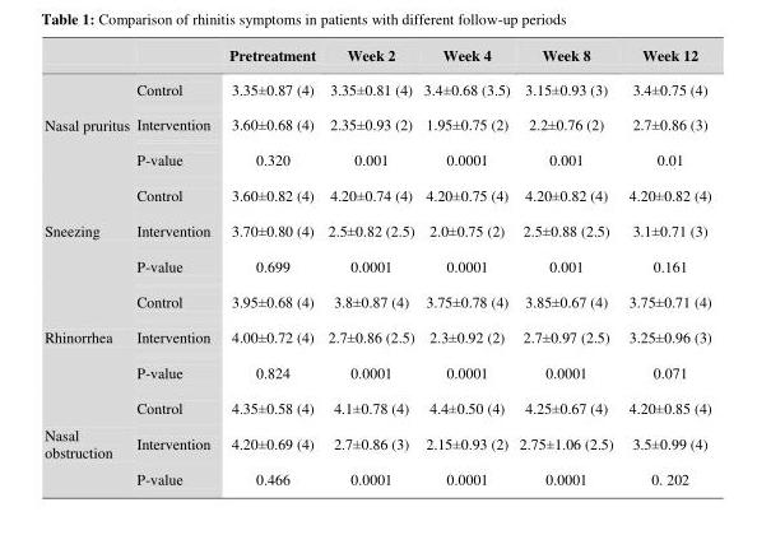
<table><thead><tr><td></td><td></td><td>Pretreatment</td><td>Week 2</td><td>Week 4</td><td>Week 8</td><td>Week 12</td></tr></thead><tbody><tr><td rowspan="3">Nasal pruritus</td><td>Control</td><td>3.35±0.87 (4)</td><td>3.35±0.81 (4)</td><td>3.4±0.68 (3.5)</td><td>3.15±0.93 (3)</td><td>3.4±0.75 (4)</td></tr><tr><td>Intervention</td><td>3.60±0.68 (4)</td><td>2.35±0.93 (2)</td><td>1.95±0.75 (2)</td><td>2.2±0.76 (2)</td><td>2.7±0.86 (3)</td></tr><tr><td>P-value</td><td>0.320</td><td>0.001</td><td>0.0001</td><td>0.001</td><td>0.01</td></tr><tr><td rowspan="3">Sneezing</td><td>Control</td><td>3.60±0.82 (4)</td><td>4.20±0.74 (4)</td><td>4.20±0.75 (4)</td><td>4.20±0.82 (4)</td><td>4.20±0.82 (4)</td></tr><tr><td>Intervention</td><td>3.70±0.80 (4)</td><td>2.5±0.82 (2.5)</td><td>2.0±0.75 (2)</td><td>2.5±0.88 (2.5)</td><td>3.1±0.71 (3)</td></tr><tr><td>P-value</td><td>0.699</td><td>0.0001</td><td>0.0001</td><td>0.001</td><td>0.161</td></tr><tr><td rowspan="3">Rhinorrhea</td><td>Control</td><td>3.95±0.68 (4)</td><td>3.8±0.87 (4)</td><td>3.75±0.78 (4)</td><td>3.85±0.67 (4)</td><td>3.75±0.71 (4)</td></tr><tr><td>Intervention</td><td>4.00±0.72 (4)</td><td>2.7±0.86 (2.5)</td><td>2.3±0.92 (2)</td><td>2.7±0.97 (2.5)</td><td>3.25±0.96 (3)</td></tr><tr><td>P-value</td><td>0.824</td><td>0.0001</td><td>0.0001</td><td>0.0001</td><td>0.071</td></tr><tr><td rowspan="3">Nasal obstruction</td><td>Control</td><td>4.35±0.58 (4)</td><td>4.1±0.78 (4)</td><td>4.4±0.50 (4)</td><td>4.25±0.67 (4)</td><td>4.20±0.85 (4)</td></tr><tr><td>Intervention</td><td>4.20±0.69 (4)</td><td>2.7±0.86 (3)</td><td>2.15±0.93 (2)</td><td>2.75±1.06 (2.5)</td><td>3.5±0.99 (4)</td></tr><tr><td>P-value</td><td>0.466</td><td>0.0001</td><td>0.0001</td><td>0.0001</td><td>0. 202</td></tr></tbody></table>